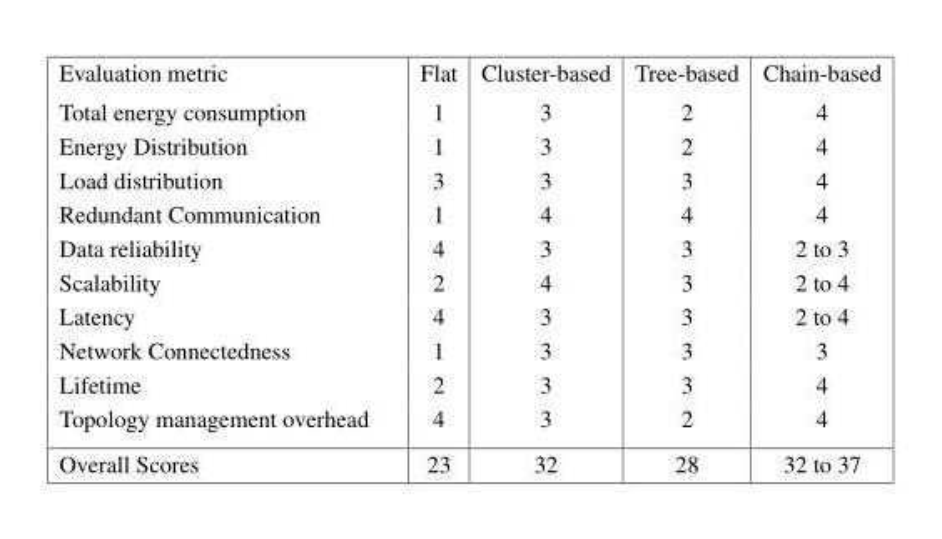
<table><thead><tr><td>Evaluation metric</td><td>Flat</td><td>Cluster-based</td><td>Tree-based</td><td>Chain-based</td></tr></thead><tbody><tr><td>Total energy consumption</td><td>1</td><td>3</td><td>2</td><td>4</td></tr><tr><td>Energy Distribution</td><td>1</td><td>3</td><td>2</td><td>4</td></tr><tr><td>Load distribution</td><td>3</td><td>3</td><td>3</td><td>4</td></tr><tr><td>Redundant Communication</td><td>1</td><td>4</td><td>4</td><td>4</td></tr><tr><td>Data reliability</td><td>4</td><td>3</td><td>3</td><td>2 to 3</td></tr><tr><td>Scalability</td><td>2</td><td>4</td><td>3</td><td>2 to 4</td></tr><tr><td>Latency</td><td>4</td><td>3</td><td>3</td><td>2 to 4</td></tr><tr><td>Network Connectedness</td><td>1</td><td>3</td><td>3</td><td>3</td></tr><tr><td>Lifetime</td><td>2</td><td>3</td><td>3</td><td>4</td></tr><tr><td>Topology management overhead</td><td>4</td><td>3</td><td>2</td><td>4</td></tr><tr><td>Overall Scores</td><td>23</td><td>32</td><td>28</td><td>32 to 37</td></tr></tbody></table>